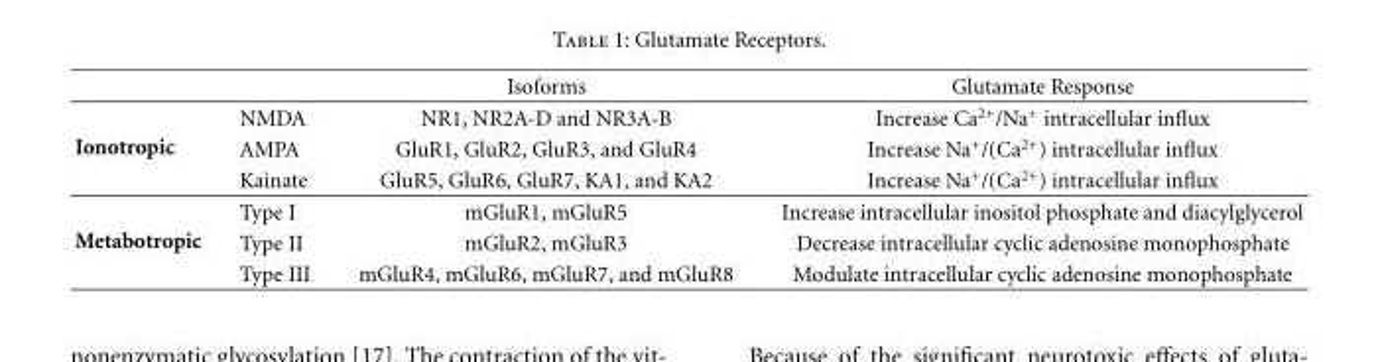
<table><thead><tr><td></td><td></td><td>Isoforms</td><td>Glutamate Response</td></tr></thead><tbody><tr><td rowspan="3">Ionotropic</td><td>NMDA</td><td>NR1, NR2A-D and NR3A-B</td><td>Increase Ca<sup>2+</sup>/Na<sup>+</sup> intracellular influx</td></tr><tr><td>AMPA</td><td>GluR1, GluR2, GluR3, and GluR4</td><td>Increase Na<sup>+</sup>/(Ca<sup>2+</sup>) intracellular influx</td></tr><tr><td>Kainate</td><td>GluR5, GluR6, GluR7, KA1, and KA2</td><td>Increase Na<sup>+</sup>/(Ca<sup>2+</sup>) intracellular influx</td></tr><tr><td rowspan="3">Metabotropic</td><td>Type I</td><td>mGluR1, mGluR5</td><td>Increase intracellular inositol phosphate and diacylglycerol</td></tr><tr><td>Type II</td><td>mGluR2, mGluR3</td><td>Decrease intracellular cyclic adenosine monophosphate</td></tr><tr><td>Type III</td><td>mGluR4, mGluR6, mGluR7, and mGluR8</td><td>Modulate intracellular cyclic adenosine monophosphate</td></tr></tbody></table>